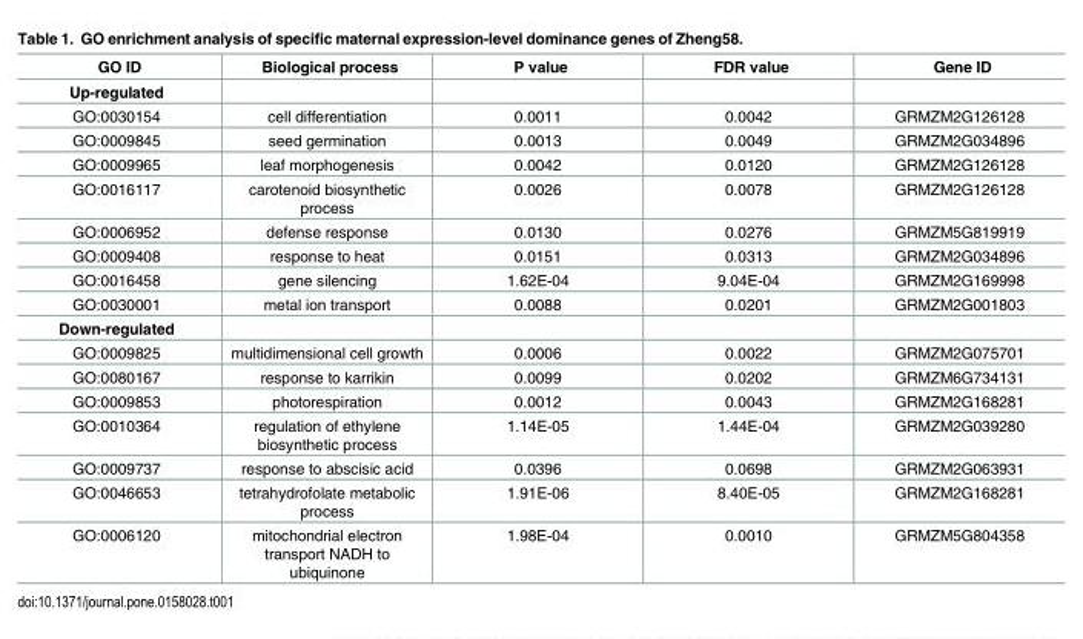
<table><thead><tr><td>GO ID</td><td>Biological process</td><td>P value</td><td>FDR value</td><td>Gene ID</td></tr></thead><tbody><tr><td colspan="5">Up-regulated</td></tr><tr><td>GO:0030154</td><td>cell differentiation</td><td>0.0011</td><td>0.0042</td><td>GRMZM2G126128</td></tr><tr><td>GO:0009845</td><td>seed germination</td><td>0.0013</td><td>0.0049</td><td>GRMZM2G034896</td></tr><tr><td>GO:0009965</td><td>leaf morphogenesis</td><td>0.0042</td><td>0.0120</td><td>GRMZM2G126128</td></tr><tr><td>GO:0016117</td><td>carotenoid biosynthetic process</td><td>0.0026</td><td>0.0078</td><td>GRMZM2G126128</td></tr><tr><td>GO:0006952</td><td>defense response</td><td>0.0130</td><td>0.0276</td><td>GRMZM5G819919</td></tr><tr><td>GO:0009408</td><td>response to heat</td><td>0.0151</td><td>0.0313</td><td>GRMZM2G034896</td></tr><tr><td>GO:0016458</td><td>gene silencing</td><td>1.62E-04</td><td>9.04E-04</td><td>GRMZM2G169998</td></tr><tr><td>GO:0030001</td><td>metal ion transport</td><td>0.0088</td><td>0.0201</td><td>GRMZM2G001803</td></tr><tr><td colspan="5">Down-regulated</td></tr><tr><td>GO:0009825</td><td>multidimensional cell growth</td><td>0.0006</td><td>0.0022</td><td>GRMZM2G075701</td></tr><tr><td>GO:0080167</td><td>response to karrikin</td><td>0.0099</td><td>0.0202</td><td>GRMZM6G734131</td></tr><tr><td>GO:0009853</td><td>photorespiration</td><td>0.0012</td><td>0.0043</td><td>GRMZM2G168281</td></tr><tr><td>GO:0010364</td><td>regulation of ethylene biosynthetic process</td><td>1.14E-05</td><td>1.44E-04</td><td>GRMZM2G039280</td></tr><tr><td>GO:0009737</td><td>response to abscisic acid</td><td>0.0396</td><td>0.0698</td><td>GRMZM2G063931</td></tr><tr><td>GO:0046653</td><td>tetrahydrofolate metabolic process</td><td>1.91E-06</td><td>8.40E-05</td><td>GRMZM2G168281</td></tr><tr><td>GO:0006120</td><td>mitochondrial electron transport NADH to ubiquinone</td><td>1.98E-04</td><td>0.0010</td><td>GRMZM5G804358</td></tr></tbody></table>